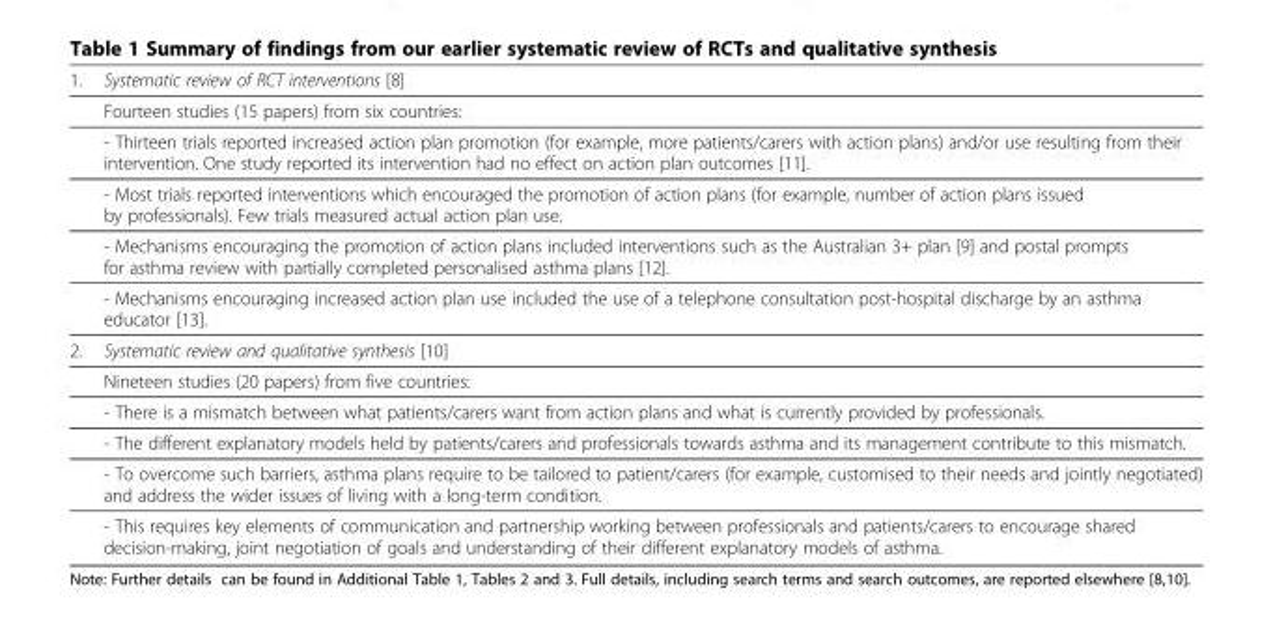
<table><tbody><tr><td rowspan="6">1.</td><td>Systematic review of RCT interventions [8]</td></tr><tr><td>Fourteen studies (15 papers) from six countries:</td></tr><tr><td>- Thirteen trials reported increased action plan promotion (for example, more patients/carers with action plans) and/or use resulting from their intervention. One study reported its intervention had no effect on action plan outcomes [11].</td></tr><tr><td>- Most trials reported interventions which encouraged the promotion of action plans (for example, number of action plans issued by professionals). Few trials measured actual action plan use.</td></tr><tr><td>- Mechanisms encouraging the promotion of action plans included interventions such as the Australian 3+ plan [9] and postal prompts for asthma review with partially completed personalised asthma plans [12].</td></tr><tr><td>- Mechanisms encouraging increased action plan use included the use of a telephone consultation post-hospital discharge by an asthma educator [13].</td></tr><tr><td rowspan="6">2.</td><td>Systematic review and qualitative synthesis [10]</td></tr><tr><td>Nineteen studies (20 papers) from five countries:</td></tr><tr><td>- There is a mismatch between what patients/carers want from action plans and what is currently provided by professionals.</td></tr><tr><td>- The different explanatory models held by patients/carers and professionals towards asthma and its management contribute to this mismatch.</td></tr><tr><td>- To overcome such barriers, asthma plans require to be tailored to patient/carers (for example, customised to their needs and jointly negotiated) and address the wider issues of living with a long-term condition.</td></tr><tr><td>- This requires key elements of communication and partnership working between professionals and patients/carers to encourage shared decision-making, joint negotiation of goals and understanding of their different explanatory models of asthma.</td></tr></tbody></table>